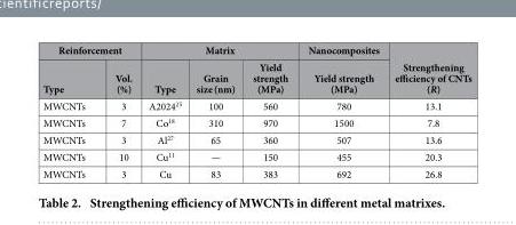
<table><thead><tr><td colspan="2">Reinforcement</td><td colspan="3">Matrix</td><td rowspan="2">Nanocomposites Yield strength (MPa)</td><td rowspan="2">Strengthening efficiency of CNTs (R)</td></tr><tr><td>Type</td><td>Vol. (%)</td><td>Type</td><td>Grain size (nm)</td><td>Yield strength (MPa)</td></tr></thead><tbody><tr><td>MWCNTs</td><td>3</td><td>A2024<sup>25</sup></td><td>100</td><td>560</td><td>780</td><td>13.1</td></tr><tr><td>MWCNTs</td><td>7</td><td>Co<sup>18</sup></td><td>310</td><td>970</td><td>1500</td><td>7.8</td></tr><tr><td>MWCNTs</td><td>3</td><td>Al<sup>27</sup></td><td>65</td><td>360</td><td>507</td><td>13.6</td></tr><tr><td>MWCNTs</td><td>10</td><td>Cu<sup>11</sup></td><td>—</td><td>150</td><td>455</td><td>20.3</td></tr><tr><td>MWCNTs</td><td>3</td><td>Cu</td><td>83</td><td>383</td><td>692</td><td>26.8</td></tr></tbody></table>